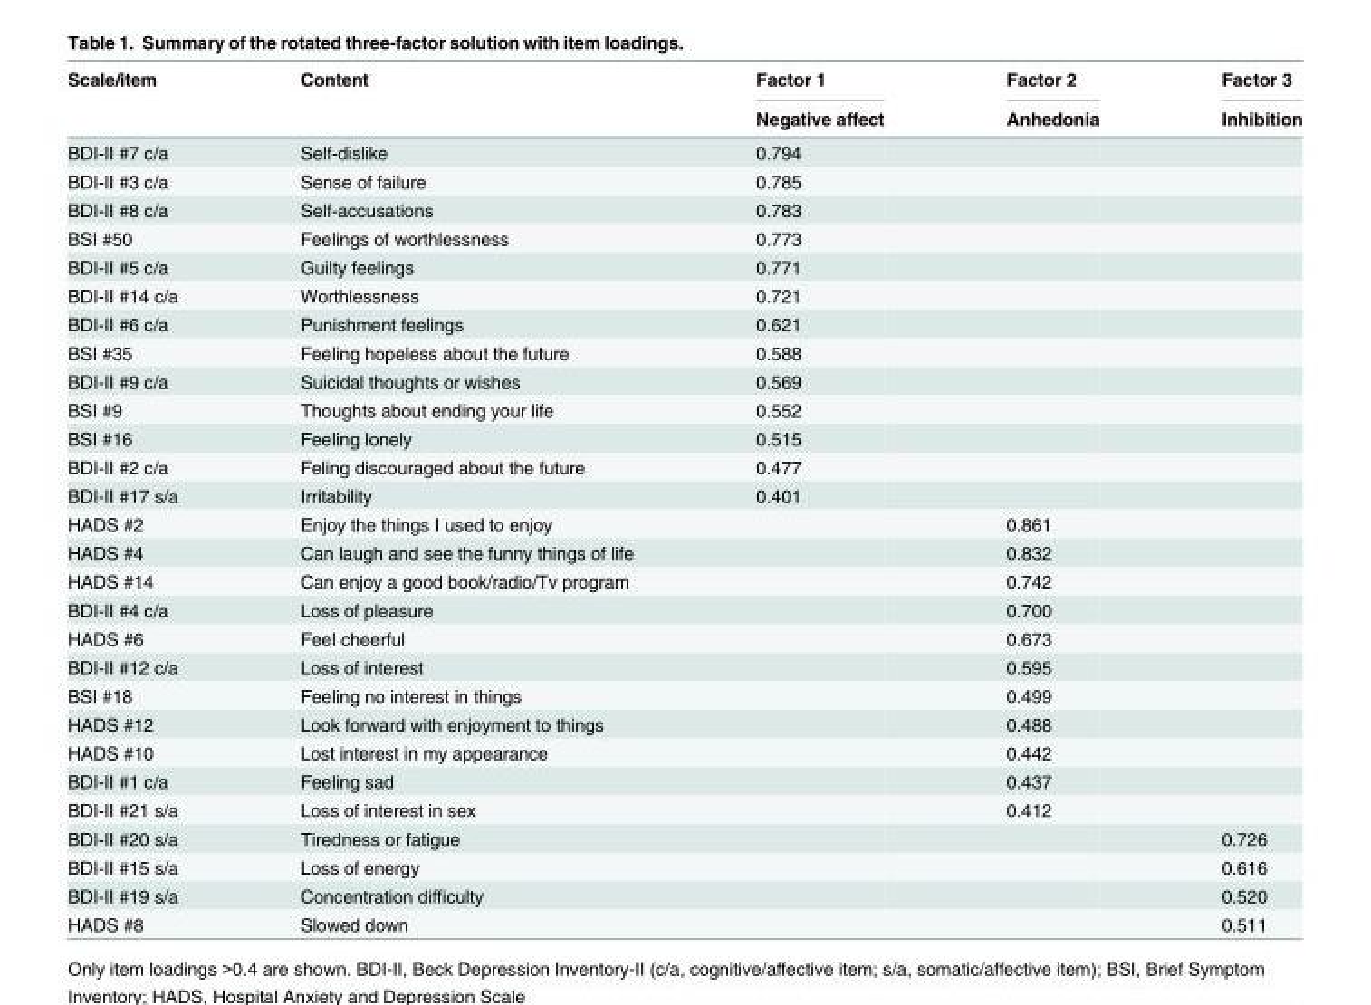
<table><thead><tr><td rowspan="2">Scale/item</td><td rowspan="2">Content</td><td rowspan="2">Factor 1 Negative affect</td><td rowspan="2">Factor 2 Anhedonia</td><td rowspan="2">Factor 3 Inhibition</td></tr><tr></tr></thead><tbody><tr><td>BDI-II #7 c/a</td><td>Self-dislike</td><td>0.794</td><td></td><td></td></tr><tr><td>BDI-II #3 c/a</td><td>Sense of failure</td><td>0.785</td><td></td><td></td></tr><tr><td>BDI-II #8 c/a</td><td>Self-accusations</td><td>0.783</td><td></td><td></td></tr><tr><td>BSI #50</td><td>Feelings of worthlessness</td><td>0.773</td><td></td><td></td></tr><tr><td>BDI-II #5 c/a</td><td>Guilty feelings</td><td>0.771</td><td></td><td></td></tr><tr><td>BDI-II #14 c/a</td><td>Worthlessness</td><td>0.721</td><td></td><td></td></tr><tr><td>BDI-II #6 c/a</td><td>Punishment feelings</td><td>0.621</td><td></td><td></td></tr><tr><td>BSI #35</td><td>Feeling hopeless about the future</td><td>0.588</td><td></td><td></td></tr><tr><td>BDI-II #9 c/a</td><td>Suicidal thoughts or wishes</td><td>0.569</td><td></td><td></td></tr><tr><td>BSI #9</td><td>Thoughts about ending your life</td><td>0.552</td><td></td><td></td></tr><tr><td>BSI #16</td><td>Feeling lonely</td><td>0.515</td><td></td><td></td></tr><tr><td>BDI-II #2 c/a</td><td>Feling discouraged about the future</td><td>0.477</td><td></td><td></td></tr><tr><td>BDI-II #17 s/a</td><td>Irritability</td><td>0.401</td><td></td><td></td></tr><tr><td>HADS #2</td><td>Enjoy the things I used to enjoy</td><td></td><td>0.861</td><td></td></tr><tr><td>HADS #4</td><td>Can laugh and see the funny things of life</td><td></td><td>0.832</td><td></td></tr><tr><td>HADS #14</td><td>Can enjoy a good book/radio/Tv program</td><td></td><td>0.742</td><td></td></tr><tr><td>BDI-II #4 c/a</td><td>Loss of pleasure</td><td></td><td>0.700</td><td></td></tr><tr><td>HADS #6</td><td>Feel cheerful</td><td></td><td>0.673</td><td></td></tr><tr><td>BDI-II #12 c/a</td><td>Loss of interest</td><td></td><td>0.595</td><td></td></tr><tr><td>BSI #18</td><td>Feeling no interest in things</td><td></td><td>0.499</td><td></td></tr><tr><td>HADS #12</td><td>Look forward with enjoyment to things</td><td></td><td>0.488</td><td></td></tr><tr><td>HADS #10</td><td>Lost interest in my appearance</td><td></td><td>0.442</td><td></td></tr><tr><td>BDI-II #1 c/a</td><td>Feeling sad</td><td></td><td>0.437</td><td></td></tr><tr><td>BDI-II #21 s/a</td><td>Loss of interest in sex</td><td></td><td>0.412</td><td></td></tr><tr><td>BDI-II #20 s/a</td><td>Tiredness or fatigue</td><td></td><td></td><td>0.726</td></tr><tr><td>BDI-II #15 s/a</td><td>Loss of energy</td><td></td><td></td><td>0.616</td></tr><tr><td>BDI-II #19 s/a</td><td>Concentration difficulty</td><td></td><td></td><td>0.520</td></tr><tr><td>HADS #8</td><td>Slowed down</td><td></td><td></td><td>0.511</td></tr></tbody></table>